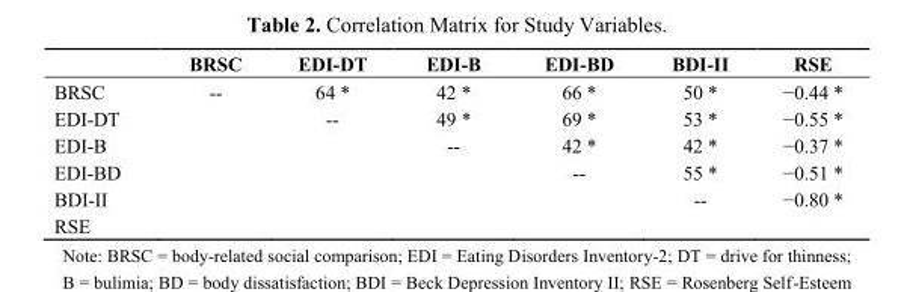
<table><thead><tr><td></td><td>BRSC</td><td>EDI-DT</td><td>EDI-B</td><td>EDI-BD</td><td>BDI-II</td><td>RSE</td></tr></thead><tbody><tr><td>BRSC</td><td>--</td><td>64 *</td><td>42 *</td><td>66 *</td><td>50 *</td><td>−0.44 *</td></tr><tr><td>EDI-DT</td><td></td><td>--</td><td>49 *</td><td>69 *</td><td>53 *</td><td>−0.55 *</td></tr><tr><td>EDI-B</td><td></td><td></td><td>--</td><td>42 *</td><td>42 *</td><td>−0.37 *</td></tr><tr><td>EDI-BD</td><td></td><td></td><td></td><td>--</td><td>55 *</td><td>−0.51 *</td></tr><tr><td>BDI-II</td><td></td><td></td><td></td><td></td><td>--</td><td>−0.80 *</td></tr><tr><td>RSE</td><td></td><td></td><td></td><td></td><td></td><td></td></tr></tbody></table>